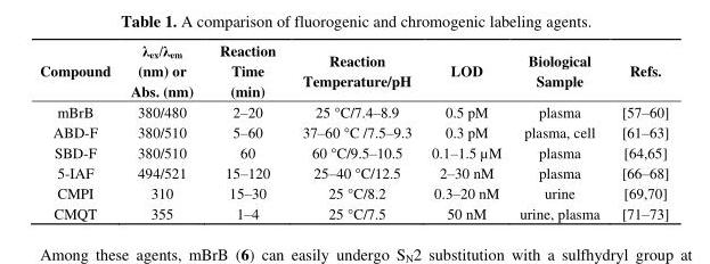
<table><thead><tr><td>Compound</td><td>λ<sub>ex</sub>/λ<sub>em</sub> (nm) or Abs. (nm)</td><td>Reaction Time (min)</td><td>Reaction Temperature/pH</td><td>LOD</td><td>Biological Sample</td><td>Refs.</td></tr></thead><tbody><tr><td>mBrB</td><td>380/480</td><td>2–20</td><td>25 °C/7.4–8.9</td><td>0.5 pM</td><td>plasma</td><td>[57–60]</td></tr><tr><td>ABD-F</td><td>380/510</td><td>5–60</td><td>37–60 °C /7.5–9.3</td><td>0.3 pM</td><td>plasma, cell</td><td>[61–63]</td></tr><tr><td>SBD-F</td><td>380/510</td><td>60</td><td>60 °C/9.5–10.5</td><td>0.1–1.5 µM</td><td>plasma</td><td>[64,65]</td></tr><tr><td>5-IAF</td><td>494/521</td><td>15–120</td><td>25–40 °C/12.5</td><td>2–30 nM</td><td>plasma</td><td>[66–68]</td></tr><tr><td>CMPI</td><td>310</td><td>15–30</td><td>25 °C/8.2</td><td>0.3–20 nM</td><td>urine</td><td>[69,70]</td></tr><tr><td>CMQT</td><td>355</td><td>1–4</td><td>25 °C/7.5</td><td>50 nM</td><td>urine, plasma</td><td>[71–73]</td></tr></tbody></table>